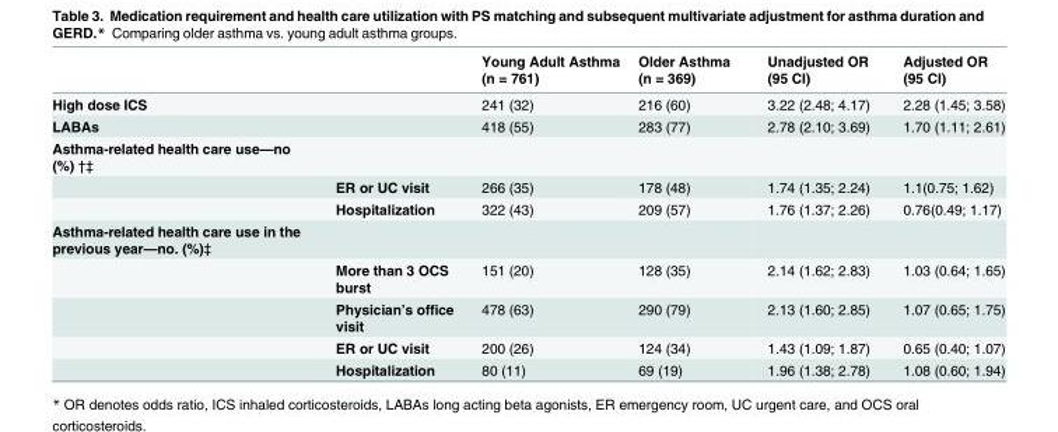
<table><thead><tr><td></td><td></td><td>Young Adult Asthma (n = 761)</td><td>Older Asthma (n = 369)</td><td>Unadjusted OR (95 CI)</td><td>Adjusted OR (95 CI)</td></tr></thead><tbody><tr><td>High dose ICS</td><td></td><td>241 (32)</td><td>216 (60)</td><td>3.22 (2.48; 4.17)</td><td>2.28 (1.45; 3.58)</td></tr><tr><td>LABAs</td><td></td><td>418 (55)</td><td>283 (77)</td><td>2.78 (2.10; 3.69)</td><td>1.70 (1.11; 2.61)</td></tr><tr><td colspan="6">Asthma-related health care use—no (%) †‡</td></tr><tr><td></td><td>ER or UC visit</td><td>266 (35)</td><td>178 (48)</td><td>1.74 (1.35; 2.24)</td><td>1.1(0.75; 1.62)</td></tr><tr><td></td><td>Hospitalization</td><td>322 (43)</td><td>209 (57)</td><td>1.76 (1.37; 2.26)</td><td>0.76(0.49; 1.17)</td></tr><tr><td colspan="6">Asthma-related health care use in the previous year—no. (%)‡</td></tr><tr><td></td><td>More than 3 OCS burst</td><td>151 (20)</td><td>128 (35)</td><td>2.14 (1.62; 2.83)</td><td>1.03 (0.64; 1.65)</td></tr><tr><td></td><td>Physician’s office visit</td><td>478 (63)</td><td>290 (79)</td><td>2.13 (1.60; 2.85)</td><td>1.07 (0.65; 1.75)</td></tr><tr><td></td><td>ER or UC visit</td><td>200 (26)</td><td>124 (34)</td><td>1.43 (1.09; 1.87)</td><td>0.65 (0.40; 1.07)</td></tr><tr><td></td><td>Hospitalization</td><td>80 (11)</td><td>69 (19)</td><td>1.96 (1.38; 2.78)</td><td>1.08 (0.60; 1.94)</td></tr></tbody></table>